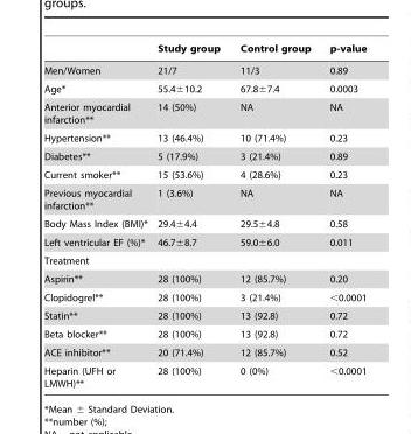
<table><thead><tr><td></td><td>Study group</td><td>Control group</td><td>p-value</td></tr></thead><tbody><tr><td>Men/Women</td><td>21/7</td><td>11/3</td><td>0.89</td></tr><tr><td>Age*</td><td>55.4±10.2</td><td>67.8±7.4</td><td>0.0003</td></tr><tr><td>Anterior myocardial infarction**</td><td>14 (50%)</td><td>NA</td><td>NA</td></tr><tr><td>Hypertension**</td><td>13 (46.4%)</td><td>10 (71.4%)</td><td>0.23</td></tr><tr><td>Diabetes**</td><td>5 (17.9%)</td><td>3 (21.4%)</td><td>0.89</td></tr><tr><td>Current smoker**</td><td>15 (53.6%)</td><td>4 (28.6%)</td><td>0.23</td></tr><tr><td>Previous myocardial infarction**</td><td>1 (3.6%)</td><td>NA</td><td>NA</td></tr><tr><td>Body Mass Index (BMI)*</td><td>29.4±4.4</td><td>29.5±4.8</td><td>0.58</td></tr><tr><td>Left ventricular EF (%)*</td><td>46.7±8.7</td><td>59.0±6.0</td><td>0.011</td></tr><tr><td colspan="4">Treatment</td></tr><tr><td>Aspirin**</td><td>28 (100%)</td><td>12 (85.7%)</td><td>0.20</td></tr><tr><td>Clopidogrel**</td><td>28 (100%)</td><td>3 (21.4%)</td><td>&lt;0.0001</td></tr><tr><td>Statin**</td><td>28 (100%)</td><td>13 (92.8)</td><td>0.72</td></tr><tr><td>Beta blocker**</td><td>28 (100%)</td><td>13 (92.8)</td><td>0.72</td></tr><tr><td>ACE inhibitor**</td><td>20 (71.4%)</td><td>12 (85.7%)</td><td>0.52</td></tr><tr><td>Heparin (UFH or LMWH)**</td><td>28 (100%)</td><td>0 (0%)</td><td>&lt;0.0001</td></tr></tbody></table>